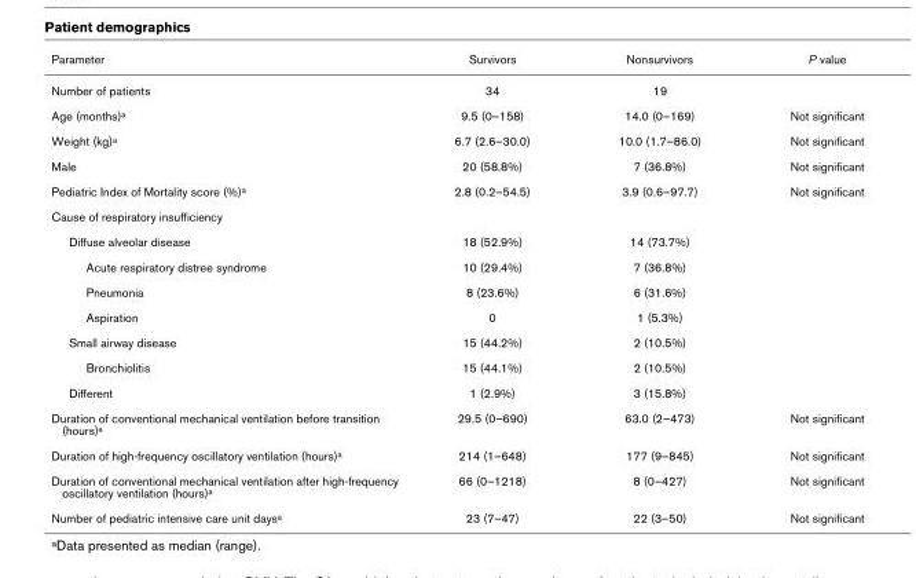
<table><thead><tr><td>Parameter</td><td>Survivors</td><td>Nonsurvivors</td><td>P value</td></tr></thead><tbody><tr><td>Number of patients</td><td>34</td><td>19</td><td></td></tr><tr><td>Age (months)a</td><td>9.5 (0–158)</td><td>14.0 (0–169)</td><td>Not significant</td></tr><tr><td>Weight (kg)a</td><td>6.7 (2.6–30.0)</td><td>10.0 (1.7–86.0)</td><td>Not significant</td></tr><tr><td>Male</td><td>20 (58.8%)</td><td>7 (36.8%)</td><td>Not significant</td></tr><tr><td>Pediatric Index of Mortality score (%)a</td><td>2.8 (0.2–54.5)</td><td>3.9 (0.6–97.7)</td><td>Not significant</td></tr><tr><td colspan="4">Cause of respiratory insufficiency</td></tr><tr><td>Diffuse alveolar disease</td><td>18 (52.9%)</td><td>14 (73.7%)</td><td></td></tr><tr><td>Acute respiratory distree syndrome</td><td>10 (29.4%)</td><td>7 (36.8%)</td><td></td></tr><tr><td>Pneumonia</td><td>8 (23.6%)</td><td>6 (31.6%)</td><td></td></tr><tr><td>Aspiration</td><td>0</td><td>1 (5.3%)</td><td></td></tr><tr><td>Small airway disease</td><td>15 (44.2%)</td><td>2 (10.5%)</td><td></td></tr><tr><td>Bronchiolitis</td><td>15 (44.1%)</td><td>2 (10.5%)</td><td></td></tr><tr><td>Different</td><td>1 (2.9%)</td><td>3 (15.8%)</td><td></td></tr><tr><td>Duration of conventional mechanical ventilation before transition (hours)a</td><td>29.5 (0–690)</td><td>63.0 (2–473)</td><td>Not significant</td></tr><tr><td>Duration of high-frequency oscillatory ventilation (hours)a</td><td>214 (1–648)</td><td>177 (9–845)</td><td>Not significant</td></tr><tr><td>Duration of conventional mechanical ventilation after high-frequency oscillatory ventilation (hours)a</td><td>66 (0–1218)</td><td>8 (0–427)</td><td>Not significant</td></tr><tr><td>Number of pediatric intensive care unit daysa</td><td>23 (7–47)</td><td>22 (3–50)</td><td>Not significant</td></tr></tbody></table>